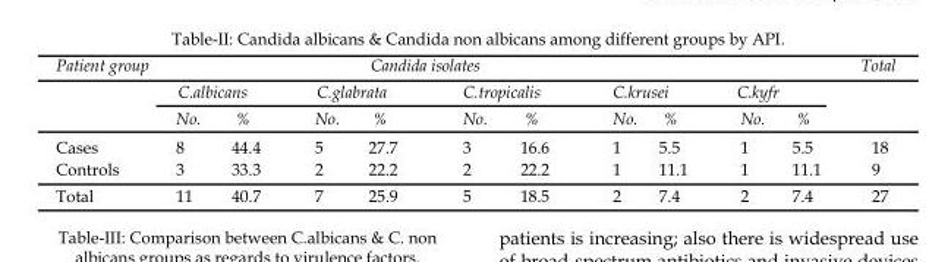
<table><thead><tr><td rowspan="3">Patient group</td><td colspan="10">Candida isolates</td><td rowspan="3">Total</td></tr><tr><td colspan="2">C.albicans</td><td colspan="2">C.glabrata</td><td colspan="2">C.tropicalis</td><td colspan="2">C.krusei</td><td colspan="2">C.kyfr</td></tr><tr><td>No.</td><td>%</td><td>No.</td><td>%</td><td>No.</td><td>%</td><td>No.</td><td>%</td><td>No.</td><td>%</td></tr></thead><tbody><tr><td>Cases</td><td>8</td><td>44.4</td><td>5</td><td>27.7</td><td>3</td><td>16.6</td><td>1</td><td>5.5</td><td>1</td><td>5.5</td><td>18</td></tr><tr><td>Controls</td><td>3</td><td>33.3</td><td>2</td><td>22.2</td><td>2</td><td>22.2</td><td>1</td><td>11.1</td><td>1</td><td>11.1</td><td>9</td></tr><tr><td>Total</td><td>11</td><td>40.7</td><td>7</td><td>25.9</td><td>5</td><td>18.5</td><td>2</td><td>7.4</td><td>2</td><td>7.4</td><td>27</td></tr></tbody></table>